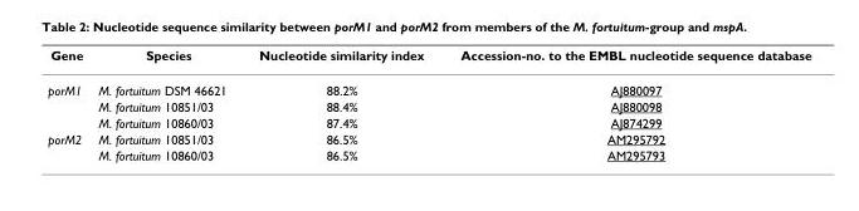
<table><thead><tr><td>Gene</td><td>Species</td><td>Nucleotide similarity index</td><td>Accession-no. to the EMBL nucleotide sequence database</td></tr></thead><tbody><tr><td rowspan="3">porM1</td><td>M. fortuitum DSM 46621</td><td>88.2%</td><td>AJ880097</td></tr><tr><td>M. fortuitum 10851/03</td><td>88.4%</td><td>AJ880098</td></tr><tr><td>M. fortuitum 10860/03</td><td>87.4%</td><td>AJ874299</td></tr><tr><td rowspan="2">porM2</td><td>M. fortuitum 10851/03</td><td>86.5%</td><td>AM295792</td></tr><tr><td>M. fortuitum 10860/03</td><td>86.5%</td><td>AM295793</td></tr></tbody></table>